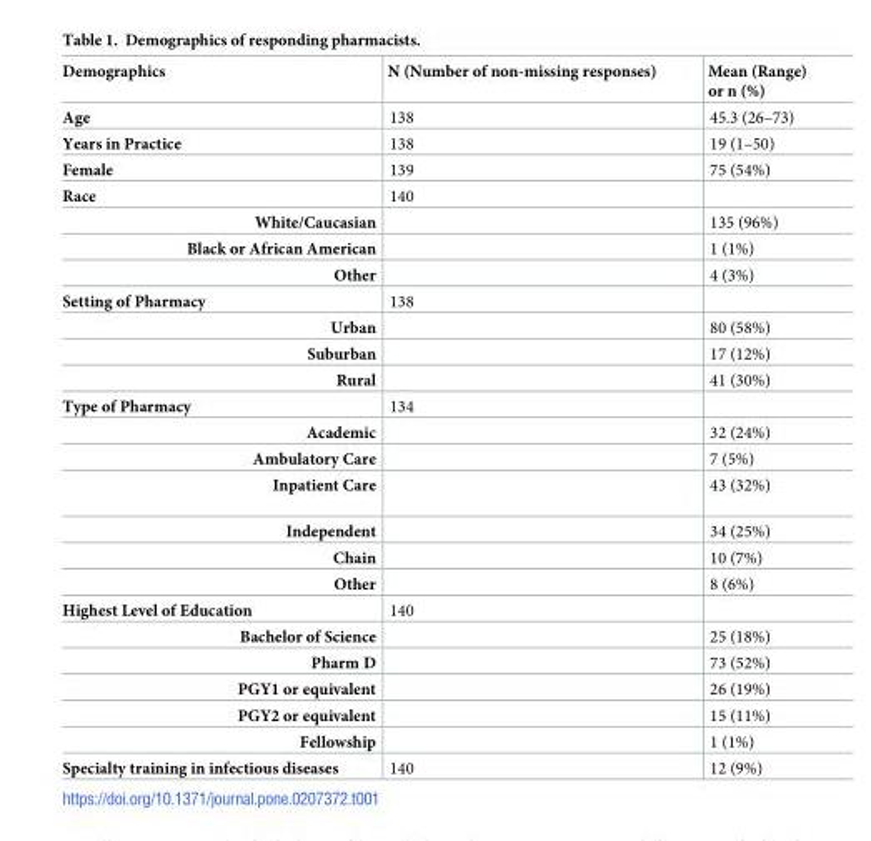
<table><thead><tr><td>Demographics</td><td>N (Number of non-missing responses)</td><td>Mean (Range) or n (%)</td></tr></thead><tbody><tr><td>Age</td><td>138</td><td>45.3 (26–73)</td></tr><tr><td>Years in Practice</td><td>138</td><td>19 (1–50)</td></tr><tr><td>Female</td><td>139</td><td>75 (54%)</td></tr><tr><td>Race</td><td>140</td><td></td></tr><tr><td>White/Caucasian</td><td></td><td>135 (96%)</td></tr><tr><td>Black or African American</td><td></td><td>1 (1%)</td></tr><tr><td>Other</td><td></td><td>4 (3%)</td></tr><tr><td>Setting of Pharmacy</td><td>138</td><td></td></tr><tr><td>Urban</td><td></td><td>80 (58%)</td></tr><tr><td>Suburban</td><td></td><td>17 (12%)</td></tr><tr><td>Rural</td><td></td><td>41 (30%)</td></tr><tr><td>Type of Pharmacy</td><td>134</td><td></td></tr><tr><td>Academic</td><td></td><td>32 (24%)</td></tr><tr><td>Ambulatory Care</td><td></td><td>7 (5%)</td></tr><tr><td>Inpatient Care</td><td></td><td>43 (32%)</td></tr><tr><td>Independent</td><td></td><td>34 (25%)</td></tr><tr><td>Chain</td><td></td><td>10 (7%)</td></tr><tr><td>Other</td><td></td><td>8 (6%)</td></tr><tr><td>Highest Level of Education</td><td>140</td><td></td></tr><tr><td>Bachelor of Science</td><td></td><td>25 (18%)</td></tr><tr><td>Pharm D</td><td></td><td>73 (52%)</td></tr><tr><td>PGY1 or equivalent</td><td></td><td>26 (19%)</td></tr><tr><td>PGY2 or equivalent</td><td></td><td>15 (11%)</td></tr><tr><td>Fellowship</td><td></td><td>1 (1%)</td></tr><tr><td>Specialty training in infectious diseases</td><td>140</td><td>12 (9%)</td></tr></tbody></table>